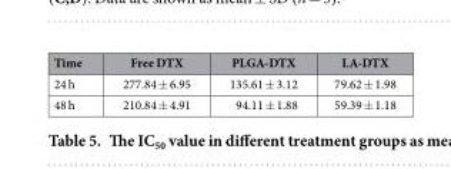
<table><thead><tr><td>Time</td><td>Free DTX</td><td>PLGA-DTX</td><td>LA-DTX</td></tr></thead><tbody><tr><td>24 h</td><td>277.84 ± 6.95</td><td>135.61 ± 3.12</td><td>79.62 ± 1.98</td></tr><tr><td>48 h</td><td>210.84 ± 4.91</td><td>94.11 ± 1.88</td><td>59.39 ± 1.18</td></tr></tbody></table>